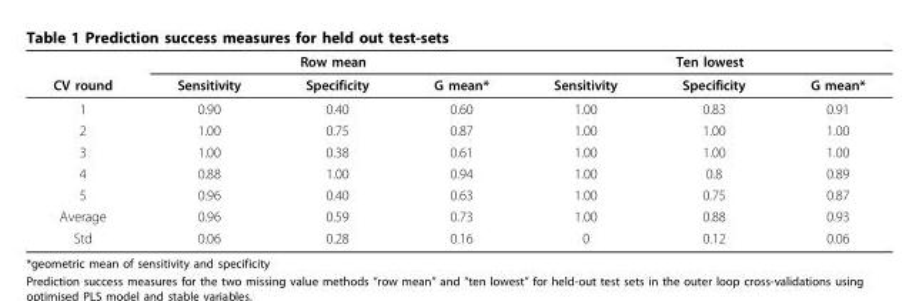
<table><thead><tr><td rowspan="2">CV round</td><td colspan="3">Row mean</td><td colspan="3">Ten lowest</td></tr><tr><td>Sensitivity</td><td>Specificity</td><td>G mean*</td><td>Sensitivity</td><td>Specificity</td><td>G mean*</td></tr></thead><tbody><tr><td>1</td><td>0.90</td><td>0.40</td><td>0.60</td><td>1.00</td><td>0.83</td><td>0.91</td></tr><tr><td>2</td><td>1.00</td><td>0.75</td><td>0.87</td><td>1.00</td><td>1.00</td><td>1.00</td></tr><tr><td>3</td><td>1.00</td><td>0.38</td><td>0.61</td><td>1.00</td><td>1.00</td><td>1.00</td></tr><tr><td>4</td><td>0.88</td><td>1.00</td><td>0.94</td><td>1.00</td><td>0.8</td><td>0.89</td></tr><tr><td>5</td><td>0.96</td><td>0.40</td><td>0.63</td><td>1.00</td><td>0.75</td><td>0.87</td></tr><tr><td>Average</td><td>0.96</td><td>0.59</td><td>0.73</td><td>1.00</td><td>0.88</td><td>0.93</td></tr><tr><td>Std</td><td>0.06</td><td>0.28</td><td>0.16</td><td>0</td><td>0.12</td><td>0.06</td></tr></tbody></table>